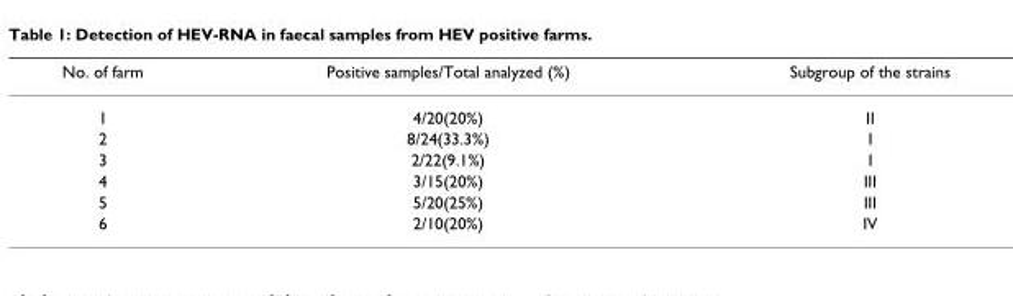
<table><thead><tr><td>No. of farm</td><td>Positive samples/Total analyzed (%)</td><td>Subgroup of the strains</td></tr></thead><tbody><tr><td>1</td><td>4/20(20%)</td><td>II</td></tr><tr><td>2</td><td>8/24(33.3%)</td><td>I</td></tr><tr><td>3</td><td>2/22(9.1%)</td><td>I</td></tr><tr><td>4</td><td>3/15(20%)</td><td>III</td></tr><tr><td>5</td><td>5/20(25%)</td><td>III</td></tr><tr><td>6</td><td>2/10(20%)</td><td>IV</td></tr></tbody></table>